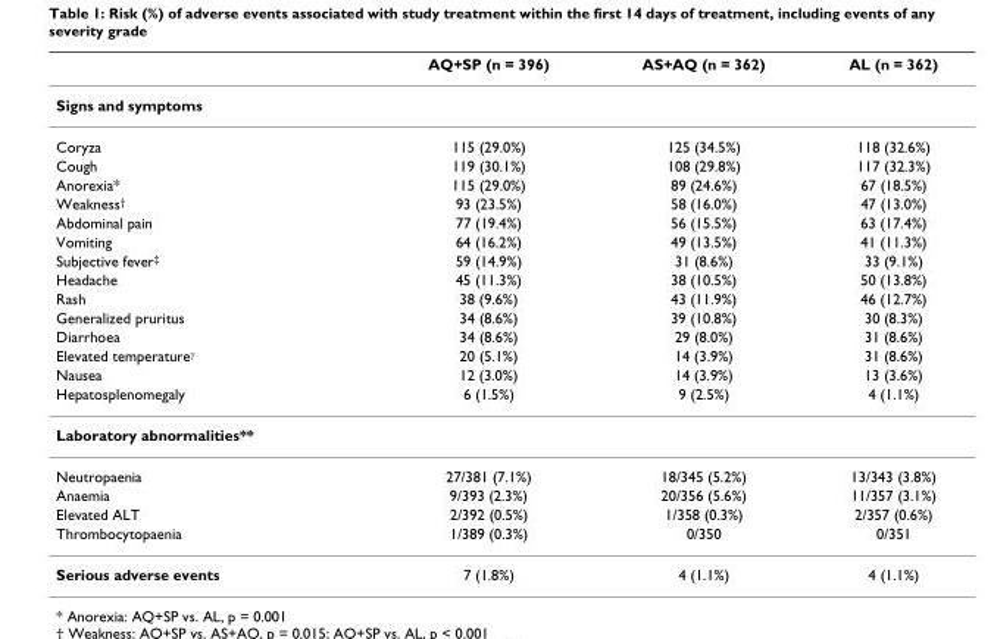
<table><thead><tr><td></td><td>AQ+SP (n = 396)</td><td>AS+AQ (n = 362)</td><td>AL (n = 362)</td></tr></thead><tbody><tr><td colspan="4">Signs and symptoms</td></tr><tr><td>Coryza</td><td>115 (29.0%)</td><td>125 (34.5%)</td><td>118 (32.6%)</td></tr><tr><td>Cough</td><td>119 (30.1%)</td><td>108 (29.8%)</td><td>117 (32.3%)</td></tr><tr><td>Anorexia*</td><td>115 (29.0%)</td><td>89 (24.6%)</td><td>67 (18.5%)</td></tr><tr><td>Weakness<sup>†</sup></td><td>93 (23.5%)</td><td>58 (16.0%)</td><td>47 (13.0%)</td></tr><tr><td>Abdominal pain</td><td>77 (19.4%)</td><td>56 (15.5%)</td><td>63 (17.4%)</td></tr><tr><td>Vomiting</td><td>64 (16.2%)</td><td>49 (13.5%)</td><td>41 (11.3%)</td></tr><tr><td>Subjective fever<sup>‡</sup></td><td>59 (14.9%)</td><td>31 (8.6%)</td><td>33 (9.1%)</td></tr><tr><td>Headache</td><td>45 (11.3%)</td><td>38 (10.5%)</td><td>50 (13.8%)</td></tr><tr><td>Rash</td><td>38 (9.6%)</td><td>43 (11.9%)</td><td>46 (12.7%)</td></tr><tr><td>Generalized pruritus</td><td>34 (8.6%)</td><td>39 (10.8%)</td><td>30 (8.3%)</td></tr><tr><td>Diarrhoea</td><td>34 (8.6%)</td><td>29 (8.0%)</td><td>31 (8.6%)</td></tr><tr><td>Elevated temperature<sup>γ</sup></td><td>20 (5.1%)</td><td>14 (3.9%)</td><td>31 (8.6%)</td></tr><tr><td>Nausea</td><td>12 (3.0%)</td><td>14 (3.9%)</td><td>13 (3.6%)</td></tr><tr><td>Hepatosplenomegaly</td><td>6 (1.5%)</td><td>9 (2.5%)</td><td>4 (1.1%)</td></tr><tr><td colspan="4">Laboratory abnormalities**</td></tr><tr><td>Neutropaenia</td><td>27/381 (7.1%)</td><td>18/345 (5.2%)</td><td>13/343 (3.8%)</td></tr><tr><td>Anaemia</td><td>9/393 (2.3%)</td><td>20/356 (5.6%)</td><td>11/357 (3.1%)</td></tr><tr><td>Elevated ALT</td><td>2/392 (0.5%)</td><td>1/358 (0.3%)</td><td>2/357 (0.6%)</td></tr><tr><td>Thrombocytopaenia</td><td>1/389 (0.3%)</td><td>0/350</td><td>0/351</td></tr><tr><td>Serious adverse events</td><td>7 (1.8%)</td><td>4 (1.1%)</td><td>4 (1.1%)</td></tr></tbody></table>